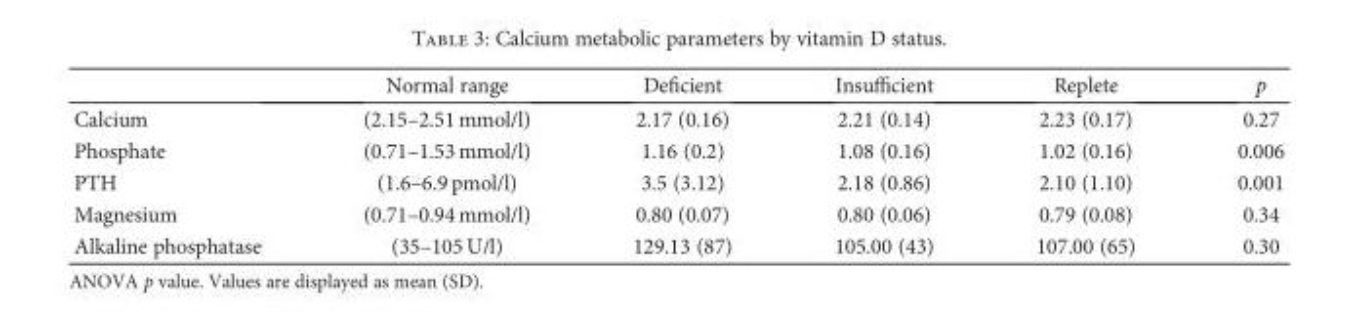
<table><thead><tr><td></td><td>Normal range</td><td>Deficient</td><td>Insufficient</td><td>Replete</td><td>p</td></tr></thead><tbody><tr><td>Calcium</td><td>(2.15–2.51 mmol/l)</td><td>2.17 (0.16)</td><td>2.21 (0.14)</td><td>2.23 (0.17)</td><td>0.27</td></tr><tr><td>Phosphate</td><td>(0.71–1.53 mmol/l)</td><td>1.16 (0.2)</td><td>1.08 (0.16)</td><td>1.02 (0.16)</td><td>0.006</td></tr><tr><td>PTH</td><td>(1.6–6.9 pmol/l)</td><td>3.5 (3.12)</td><td>2.18 (0.86)</td><td>2.10 (1.10)</td><td>0.001</td></tr><tr><td>Magnesium</td><td>(0.71–0.94 mmol/l)</td><td>0.80 (0.07)</td><td>0.80 (0.06)</td><td>0.79 (0.08)</td><td>0.34</td></tr><tr><td>Alkaline phosphatase</td><td>(35–105 U/l)</td><td>129.13 (87)</td><td>105.00 (43)</td><td>107.00 (65)</td><td>0.30</td></tr></tbody></table>